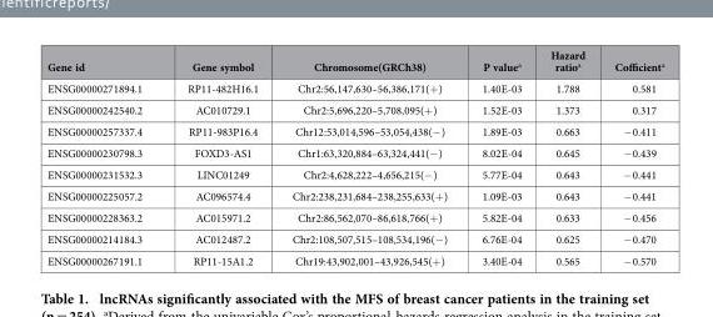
<table><thead><tr><td>Gene id</td><td>Gene symbol</td><td>Chromosome(GRCh38)</td><td>P value<sup>a</sup></td><td>Hazard ratio<sup>a</sup></td><td>Cofficient<sup>a</sup></td></tr></thead><tbody><tr><td>ENSG00000271894.1</td><td>RP11-482H16.1</td><td>Chr2:56,147,630–56,386,171(+ )</td><td>1.40E-03</td><td>1.788</td><td>0.581</td></tr><tr><td>ENSG00000242540.2</td><td>AC010729.1</td><td>Chr2:5,696,220–5,708,095(+ )</td><td>1.52E-03</td><td>1.373</td><td>0.317</td></tr><tr><td>ENSG00000257337.4</td><td>RP11-983P16.4</td><td>Chr12:53,014,596–53,054,438(− )</td><td>1.89E-03</td><td>0.663</td><td>− 0.411</td></tr><tr><td>ENSG00000230798.3</td><td>FOXD3-AS1</td><td>Chr1:63,320,884–63,324,441(− )</td><td>8.02E-04</td><td>0.645</td><td>− 0.439</td></tr><tr><td>ENSG00000231532.3</td><td>LINC01249</td><td>Chr2:4,628,222–4,656,215(− )</td><td>5.77E-04</td><td>0.643</td><td>− 0.441</td></tr><tr><td>ENSG00000225057.2</td><td>AC096574.4</td><td>Chr2:238,231,684–238,255,633(+ )</td><td>1.09E-03</td><td>0.643</td><td>− 0.441</td></tr><tr><td>ENSG00000228363.2</td><td>AC015971.2</td><td>Chr2:86,562,070–86,618,766(+ )</td><td>5.82E-04</td><td>0.633</td><td>− 0.456</td></tr><tr><td>ENSG00000214184.3</td><td>AC012487.2</td><td>Chr2:108,507,515–108,534,196(− )</td><td>6.76E-04</td><td>0.625</td><td>− 0.470</td></tr><tr><td>ENSG00000267191.1</td><td>RP11-15A1.2</td><td>Chr19:43,902,001–43,926,545(+ )</td><td>3.40E-04</td><td>0.565</td><td>− 0.570</td></tr></tbody></table>